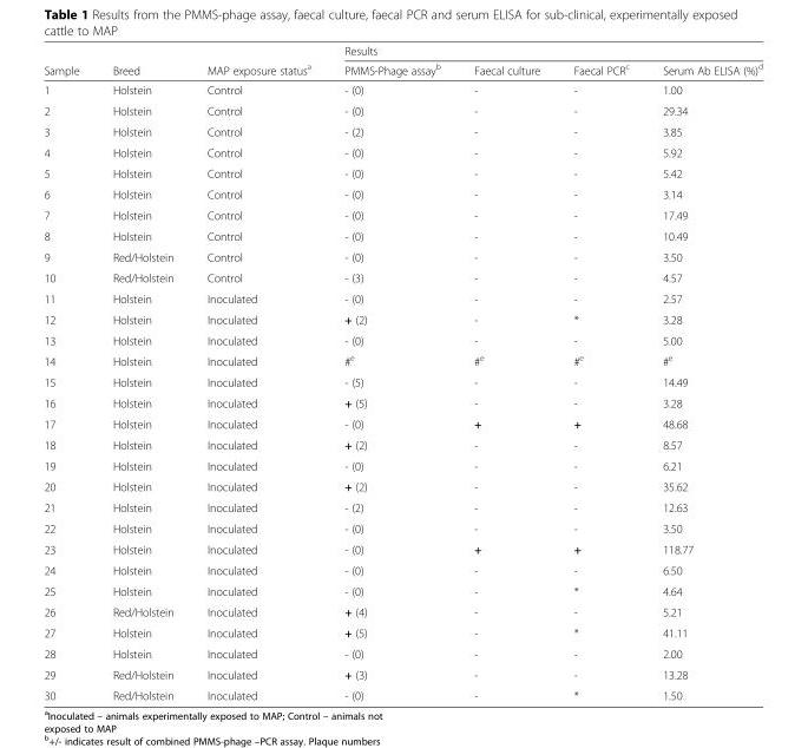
<table><thead><tr><td rowspan="2">Sample</td><td rowspan="2">Breed</td><td rowspan="2">MAP exposure status<sup>a</sup></td><td colspan="4">Results</td></tr><tr><td>PMMS-Phage assay<sup>b</sup></td><td>Faecal culture</td><td>Faecal PCR<sup>c</sup></td><td>Serum Ab ELISA (%)<sup>d</sup></td></tr></thead><tbody><tr><td>1</td><td>Holstein</td><td>Control</td><td>- (0)</td><td>-</td><td>-</td><td>1.00</td></tr><tr><td>2</td><td>Holstein</td><td>Control</td><td>- (0)</td><td>-</td><td>-</td><td>29.34</td></tr><tr><td>3</td><td>Holstein</td><td>Control</td><td>- (2)</td><td>-</td><td>-</td><td>3.85</td></tr><tr><td>4</td><td>Holstein</td><td>Control</td><td>- (0)</td><td>-</td><td>-</td><td>5.92</td></tr><tr><td>5</td><td>Holstein</td><td>Control</td><td>- (0)</td><td>-</td><td>-</td><td>5.42</td></tr><tr><td>6</td><td>Holstein</td><td>Control</td><td>- (0)</td><td>-</td><td>-</td><td>3.14</td></tr><tr><td>7</td><td>Holstein</td><td>Control</td><td>- (0)</td><td>-</td><td>-</td><td>17.49</td></tr><tr><td>8</td><td>Holstein</td><td>Control</td><td>- (0)</td><td>-</td><td>-</td><td>10.49</td></tr><tr><td>9</td><td>Red/Holstein</td><td>Control</td><td>- (0)</td><td>-</td><td>-</td><td>3.50</td></tr><tr><td>10</td><td>Red/Holstein</td><td>Control</td><td>- (3)</td><td>-</td><td>-</td><td>4.57</td></tr><tr><td>11</td><td>Holstein</td><td>Inoculated</td><td>- (0)</td><td>-</td><td>-</td><td>2.57</td></tr><tr><td>12</td><td>Holstein</td><td>Inoculated</td><td>+ (2)</td><td>-</td><td>*</td><td>3.28</td></tr><tr><td>13</td><td>Holstein</td><td>Inoculated</td><td>- (0)</td><td>-</td><td>-</td><td>5.00</td></tr><tr><td>14</td><td>Holstein</td><td>Inoculated</td><td>#<sup>e</sup></td><td>#<sup>e</sup></td><td>#<sup>e</sup></td><td>#<sup>e</sup></td></tr><tr><td>15</td><td>Holstein</td><td>Inoculated</td><td>- (5)</td><td>-</td><td>-</td><td>14.49</td></tr><tr><td>16</td><td>Holstein</td><td>Inoculated</td><td>+ (5)</td><td>-</td><td>-</td><td>3.28</td></tr><tr><td>17</td><td>Holstein</td><td>Inoculated</td><td>- (0)</td><td>+</td><td>+</td><td>48.68</td></tr><tr><td>18</td><td>Holstein</td><td>Inoculated</td><td>+ (2)</td><td>-</td><td>-</td><td>8.57</td></tr><tr><td>19</td><td>Holstein</td><td>Inoculated</td><td>- (0)</td><td>-</td><td>-</td><td>6.21</td></tr><tr><td>20</td><td>Holstein</td><td>Inoculated</td><td>+ (2)</td><td>-</td><td>-</td><td>35.62</td></tr><tr><td>21</td><td>Holstein</td><td>Inoculated</td><td>- (2)</td><td>-</td><td>-</td><td>12.63</td></tr><tr><td>22</td><td>Holstein</td><td>Inoculated</td><td>- (0)</td><td>-</td><td>-</td><td>3.50</td></tr><tr><td>23</td><td>Holstein</td><td>Inoculated</td><td>- (0)</td><td>+</td><td>+</td><td>118.77</td></tr><tr><td>24</td><td>Holstein</td><td>Inoculated</td><td>- (0)</td><td>-</td><td>-</td><td>6.50</td></tr><tr><td>25</td><td>Holstein</td><td>Inoculated</td><td>- (0)</td><td>-</td><td>*</td><td>4.64</td></tr><tr><td>26</td><td>Red/Holstein</td><td>Inoculated</td><td>+ (4)</td><td>-</td><td>-</td><td>5.21</td></tr><tr><td>27</td><td>Holstein</td><td>Inoculated</td><td>+ (5)</td><td>-</td><td>*</td><td>41.11</td></tr><tr><td>28</td><td>Holstein</td><td>Inoculated</td><td>- (0)</td><td>-</td><td>-</td><td>2.00</td></tr><tr><td>29</td><td>Red/Holstein</td><td>Inoculated</td><td>+ (3)</td><td>-</td><td>-</td><td>13.28</td></tr><tr><td>30</td><td>Red/Holstein</td><td>Inoculated</td><td>- (0)</td><td>-</td><td>*</td><td>1.50</td></tr></tbody></table>